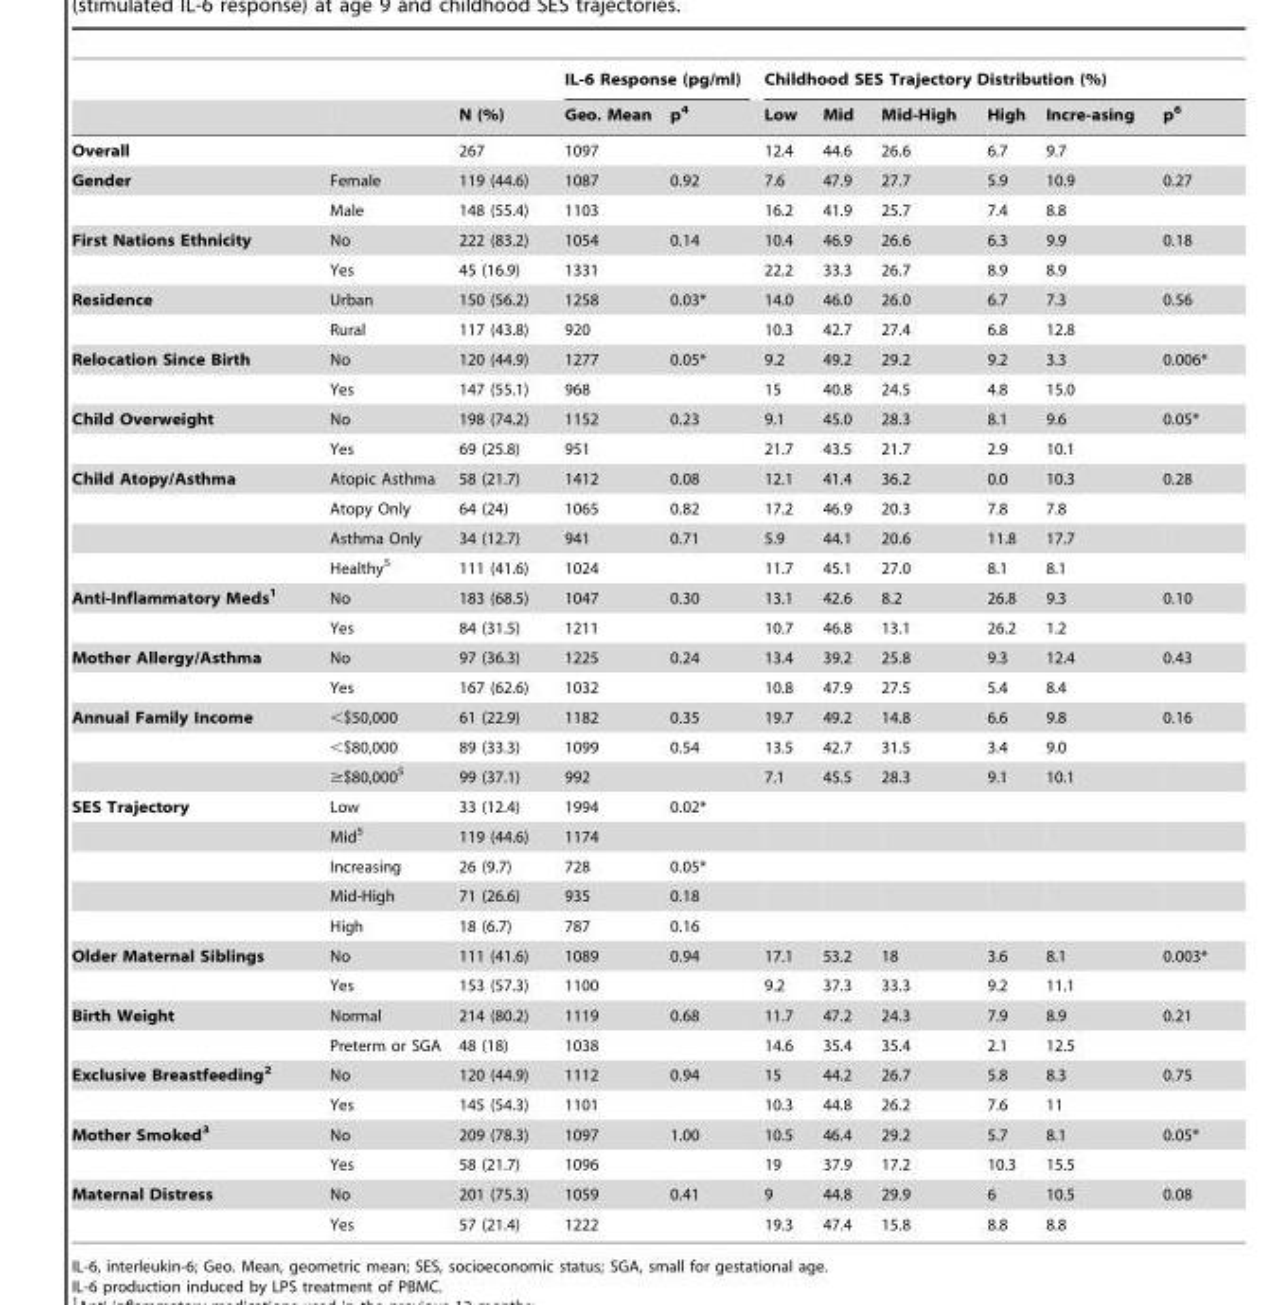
<table><thead><tr><td rowspan="2"></td><td rowspan="2"></td><td rowspan="2">N (%)</td><td colspan="2">IL-6 Response (pg/ml)</td><td colspan="6">Childhood SES Trajectory Distribution (%)</td></tr><tr><td>Geo. Mean</td><td>p<sup>4</sup></td><td>Low</td><td>Mid</td><td>Mid-High</td><td>High</td><td>Incre-asing</td><td>p<sup>6</sup></td></tr></thead><tbody><tr><td>Overall</td><td></td><td>267</td><td>1097</td><td></td><td>12.4</td><td>44.6</td><td>26.6</td><td>6.7</td><td>9.7</td><td></td></tr><tr><td rowspan="2">Gender</td><td>Female</td><td>119 (44.6)</td><td>1087</td><td>0.92</td><td>7.6</td><td>47.9</td><td>27.7</td><td>5.9</td><td>10.9</td><td>0.27</td></tr><tr><td>Male</td><td>148 (55.4)</td><td>1103</td><td></td><td>16.2</td><td>41.9</td><td>25.7</td><td>7.4</td><td>8.8</td><td></td></tr><tr><td rowspan="2">First Nations Ethnicity</td><td>No</td><td>222 (83.2)</td><td>1054</td><td>0.14</td><td>10.4</td><td>46.9</td><td>26.6</td><td>6.3</td><td>9.9</td><td>0.18</td></tr><tr><td>Yes</td><td>45 (16.9)</td><td>1331</td><td></td><td>22.2</td><td>33.3</td><td>26.7</td><td>8.9</td><td>8.9</td><td></td></tr><tr><td rowspan="2">Residence</td><td>Urban</td><td>150 (56.2)</td><td>1258</td><td>0.03*</td><td>14.0</td><td>46.0</td><td>26.0</td><td>6.7</td><td>7.3</td><td>0.56</td></tr><tr><td>Rural</td><td>117 (43.8)</td><td>920</td><td></td><td>10.3</td><td>42.7</td><td>27.4</td><td>6.8</td><td>12.8</td><td></td></tr><tr><td rowspan="2">Relocation Since Birth</td><td>No</td><td>120 (44.9)</td><td>1277</td><td>0.05*</td><td>9.2</td><td>49.2</td><td>29.2</td><td>9.2</td><td>3.3</td><td>0.006*</td></tr><tr><td>Yes</td><td>147 (55.1)</td><td>968</td><td></td><td>15</td><td>40.8</td><td>24.5</td><td>4.8</td><td>15.0</td><td></td></tr><tr><td rowspan="2">Child Overweight</td><td>No</td><td>198 (74.2)</td><td>1152</td><td>0.23</td><td>9.1</td><td>45.0</td><td>28.3</td><td>8.1</td><td>9.6</td><td>0.05*</td></tr><tr><td>Yes</td><td>69 (25.8)</td><td>951</td><td></td><td>21.7</td><td>43.5</td><td>21.7</td><td>2.9</td><td>10.1</td><td></td></tr><tr><td rowspan="4">Child Atopy/Asthma</td><td>Atopic Asthma</td><td>58 (21.7)</td><td>1412</td><td>0.08</td><td>12.1</td><td>41.4</td><td>36.2</td><td>0.0</td><td>10.3</td><td>0.28</td></tr><tr><td>Atopy Only</td><td>64 (24)</td><td>1065</td><td>0.82</td><td>17.2</td><td>46.9</td><td>20.3</td><td>7.8</td><td>7.8</td><td></td></tr><tr><td>Asthma Only</td><td>34 (12.7)</td><td>941</td><td>0.71</td><td>5.9</td><td>44.1</td><td>20.6</td><td>11.8</td><td>17.7</td><td></td></tr><tr><td>Healthy<sup>5</sup></td><td>111 (41.6)</td><td>1024</td><td></td><td>11.7</td><td>45.1</td><td>27.0</td><td>8.1</td><td>8.1</td><td></td></tr><tr><td rowspan="2">Anti-Inflammatory Meds1</td><td>No</td><td>183 (68.5)</td><td>1047</td><td>0.30</td><td>13.1</td><td>42.6</td><td>8.2</td><td>26.8</td><td>9.3</td><td>0.10</td></tr><tr><td>Yes</td><td>84 (31.5)</td><td>1211</td><td></td><td>10.7</td><td>46.8</td><td>13.1</td><td>26.2</td><td>1.2</td><td></td></tr><tr><td rowspan="2">Mother Allergy/Asthma</td><td>No</td><td>97 (36.3)</td><td>1225</td><td>0.24</td><td>13.4</td><td>39.2</td><td>25.8</td><td>9.3</td><td>12.4</td><td>0.43</td></tr><tr><td>Yes</td><td>167 (62.6)</td><td>1032</td><td></td><td>10.8</td><td>47.9</td><td>27.5</td><td>5.4</td><td>8.4</td><td></td></tr><tr><td rowspan="3">Annual Family Income</td><td>&lt;$50,000</td><td>61 (22.9)</td><td>1182</td><td>0.35</td><td>19.7</td><td>49.2</td><td>14.8</td><td>6.6</td><td>9.8</td><td>0.16</td></tr><tr><td>&lt;$80,000</td><td>89 (33.3)</td><td>1099</td><td>0.54</td><td>13.5</td><td>42.7</td><td>31.5</td><td>3.4</td><td>9.0</td><td></td></tr><tr><td>≥$80,000<sup>5</sup></td><td>99 (37.1)</td><td>992</td><td></td><td>7.1</td><td>45.5</td><td>28.3</td><td>9.1</td><td>10.1</td><td></td></tr><tr><td rowspan="5">SES Trajectory</td><td>Low</td><td>33 (12.4)</td><td>1994</td><td>0.02*</td><td></td><td></td><td></td><td></td><td></td><td></td></tr><tr><td>Mid<sup>5</sup></td><td>119 (44.6)</td><td>1174</td><td></td><td></td><td></td><td></td><td></td><td></td><td></td></tr><tr><td>Increasing</td><td>26 (9.7)</td><td>728</td><td>0.05*</td><td></td><td></td><td></td><td></td><td></td><td></td></tr><tr><td>Mid-High</td><td>71 (26.6)</td><td>935</td><td>0.18</td><td></td><td></td><td></td><td></td><td></td><td></td></tr><tr><td>High</td><td>18 (6.7)</td><td>787</td><td>0.16</td><td></td><td></td><td></td><td></td><td></td><td></td></tr><tr><td rowspan="2">Older Maternal Siblings</td><td>No</td><td>111 (41.6)</td><td>1089</td><td>0.94</td><td>17.1</td><td>53.2</td><td>18</td><td>3.6</td><td>8.1</td><td>0.003*</td></tr><tr><td>Yes</td><td>153 (57.3)</td><td>1100</td><td></td><td>9.2</td><td>37.3</td><td>33.3</td><td>9.2</td><td>11.1</td><td></td></tr><tr><td rowspan="2">Birth Weight</td><td>Normal</td><td>214 (80.2)</td><td>1119</td><td>0.68</td><td>11.7</td><td>47.2</td><td>24.3</td><td>7.9</td><td>8.9</td><td>0.21</td></tr><tr><td>Preterm or SGA</td><td>48 (18)</td><td>1038</td><td></td><td>14.6</td><td>35.4</td><td>35.4</td><td>2.1</td><td>12.5</td><td></td></tr><tr><td rowspan="2">Exclusive Breastfeeding2</td><td>No</td><td>120 (44.9)</td><td>1112</td><td>0.94</td><td>15</td><td>44.2</td><td>26.7</td><td>5.8</td><td>8.3</td><td>0.75</td></tr><tr><td>Yes</td><td>145 (54.3)</td><td>1101</td><td></td><td>10.3</td><td>44.8</td><td>26.2</td><td>7.6</td><td>11</td><td></td></tr><tr><td rowspan="2">Mother Smoked3</td><td>No</td><td>209 (78.3)</td><td>1097</td><td>1.00</td><td>10.5</td><td>46.4</td><td>29.2</td><td>5.7</td><td>8.1</td><td>0.05*</td></tr><tr><td>Yes</td><td>58 (21.7)</td><td>1096</td><td></td><td>19</td><td>37.9</td><td>17.2</td><td>10.3</td><td>15.5</td><td></td></tr><tr><td rowspan="2">Maternal Distress</td><td>No</td><td>201 (75.3)</td><td>1059</td><td>0.41</td><td>9</td><td>44.8</td><td>29.9</td><td>6</td><td>10.5</td><td>0.08</td></tr><tr><td>Yes</td><td>57 (21.4)</td><td>1222</td><td></td><td>19.3</td><td>47.4</td><td>15.8</td><td>8.8</td><td>8.8</td><td></td></tr></tbody></table>